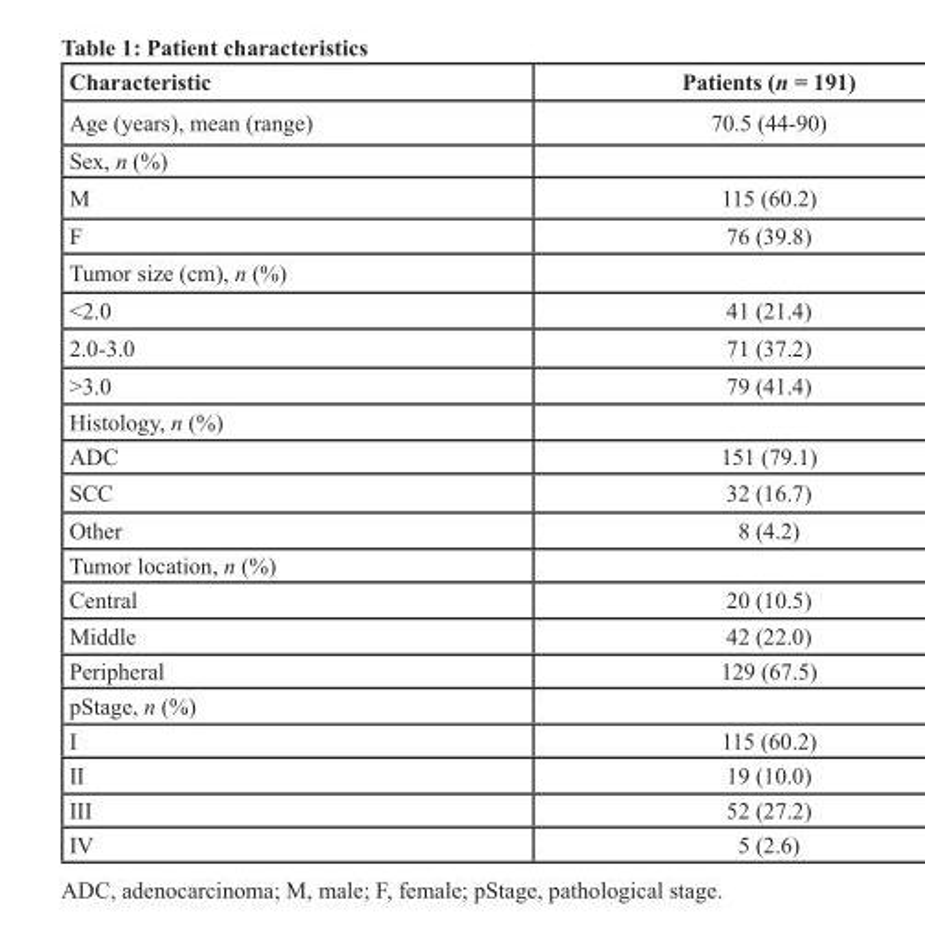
<table><thead><tr><td>Characteristic</td><td>Patients (n = 191)</td></tr></thead><tbody><tr><td>Age (years), mean (range)</td><td>70.5 (44-90)</td></tr><tr><td colspan="2">Sex, n (%)</td></tr><tr><td>M</td><td>115 (60.2)</td></tr><tr><td>F</td><td>76 (39.8)</td></tr><tr><td colspan="2">Tumor size (cm), n (%)</td></tr><tr><td>&lt;2.0</td><td>41 (21.4)</td></tr><tr><td>2.0-3.0</td><td>71 (37.2)</td></tr><tr><td>&gt;3.0</td><td>79 (41.4)</td></tr><tr><td colspan="2">Histology, n (%)</td></tr><tr><td>ADC</td><td>151 (79.1)</td></tr><tr><td>SCC</td><td>32 (16.7)</td></tr><tr><td>Other</td><td>8 (4.2)</td></tr><tr><td colspan="2">Tumor location, n (%)</td></tr><tr><td>Central</td><td>20 (10.5)</td></tr><tr><td>Middle</td><td>42 (22.0)</td></tr><tr><td>Peripheral</td><td>129 (67.5)</td></tr><tr><td colspan="2">pStage, n (%)</td></tr><tr><td>I</td><td>115 (60.2)</td></tr><tr><td>II</td><td>19 (10.0)</td></tr><tr><td>III</td><td>52 (27.2)</td></tr><tr><td>IV</td><td>5 (2.6)</td></tr></tbody></table>